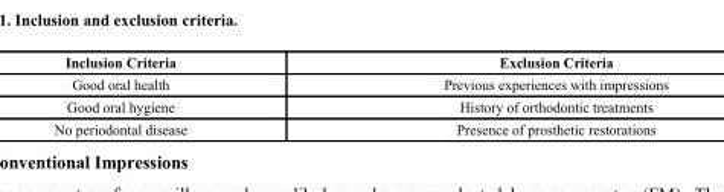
<table><thead><tr><td>Inclusion Criteria</td><td>Exclusion Criteria</td></tr></thead><tbody><tr><td>Good oral health</td><td>Previous experiences with impressions</td></tr><tr><td>Good oral hygiene</td><td>History of orthodontic treatments</td></tr><tr><td>No periodontal disease</td><td>Presence of prosthetic restorations</td></tr></tbody></table>